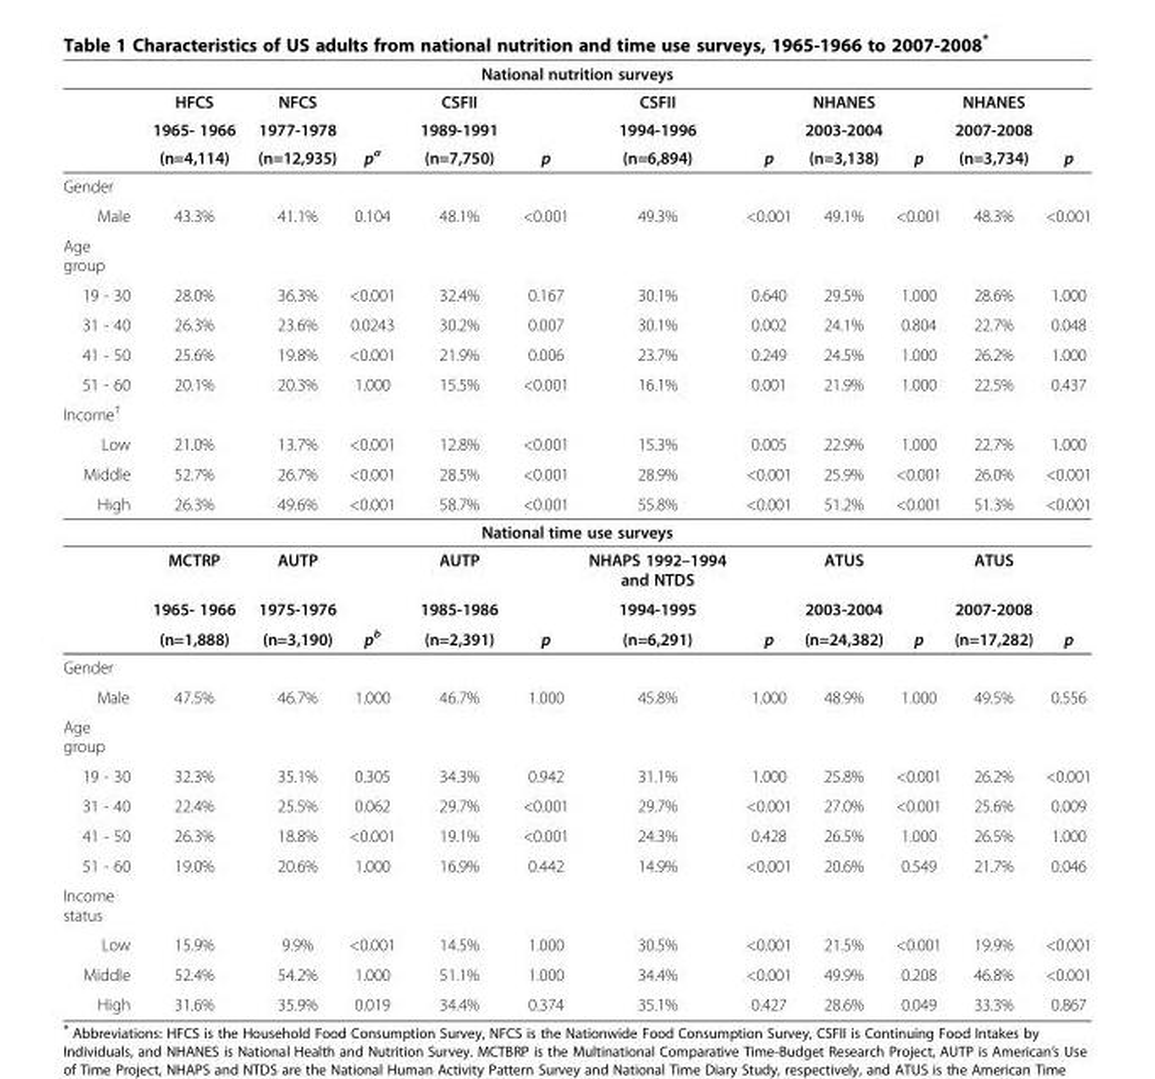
<table><thead><tr><td colspan="12">National nutrition surveys</td></tr><tr><td rowspan="3"></td><td rowspan="3">HFCS 1965- 1966 (n=4,114)</td><td rowspan="3">NFCS 1977-1978 (n=12,935)</td><td rowspan="3">p<sup>a</sup></td><td rowspan="3">CSFII 1989-1991 (n=7,750)</td><td rowspan="3">p</td><td rowspan="3">CSFII 1994-1996 (n=6,894)</td><td rowspan="3">p</td><td rowspan="3">NHANES 2003-2004 (n=3,138)</td><td rowspan="3">p</td><td rowspan="3">NHANES 2007-2008 (n=3,734)</td><td rowspan="3">p</td></tr><tr></tr><tr></tr></thead><tbody><tr><td colspan="12">Gender</td></tr><tr><td>Male</td><td>43.3%</td><td>41.1%</td><td>0.104</td><td>48.1%</td><td>&lt;0.001</td><td>49.3%</td><td>&lt;0.001</td><td>49.1%</td><td>&lt;0.001</td><td>48.3%</td><td>&lt;0.001</td></tr><tr><td colspan="12">Age group</td></tr><tr><td>19 - 30</td><td>28.0%</td><td>36.3%</td><td>&lt;0.001</td><td>32.4%</td><td>0.167</td><td>30.1%</td><td>0.640</td><td>29.5%</td><td>1.000</td><td>28.6%</td><td>1.000</td></tr><tr><td>31 - 40</td><td>26.3%</td><td>23.6%</td><td>0.0243</td><td>30.2%</td><td>0.007</td><td>30.1%</td><td>0.002</td><td>24.1%</td><td>0.804</td><td>22.7%</td><td>0.048</td></tr><tr><td>41 - 50</td><td>25.6%</td><td>19.8%</td><td>&lt;0.001</td><td>21.9%</td><td>0.006</td><td>23.7%</td><td>0.249</td><td>24.5%</td><td>1.000</td><td>26.2%</td><td>1.000</td></tr><tr><td>51 - 60</td><td>20.1%</td><td>20.3%</td><td>1.000</td><td>15.5%</td><td>&lt;0.001</td><td>16.1%</td><td>0.001</td><td>21.9%</td><td>1.000</td><td>22.5%</td><td>0.437</td></tr><tr><td colspan="12">Income<sup>†</sup></td></tr><tr><td>Low</td><td>21.0%</td><td>13.7%</td><td>&lt;0.001</td><td>12.8%</td><td>&lt;0.001</td><td>15.3%</td><td>0.005</td><td>22.9%</td><td>1.000</td><td>22.7%</td><td>1.000</td></tr><tr><td>Middle</td><td>52.7%</td><td>26.7%</td><td>&lt;0.001</td><td>28.5%</td><td>&lt;0.001</td><td>28.9%</td><td>&lt;0.001</td><td>25.9%</td><td>&lt;0.001</td><td>26.0%</td><td>&lt;0.001</td></tr><tr><td>High</td><td>26.3%</td><td>49.6%</td><td>&lt;0.001</td><td>58.7%</td><td>&lt;0.001</td><td>55.8%</td><td>&lt;0.001</td><td>51.2%</td><td>&lt;0.001</td><td>51.3%</td><td>&lt;0.001</td></tr><tr><td colspan="12">National time use surveys</td></tr><tr><td></td><td>MCTRP</td><td>AUTP</td><td></td><td>AUTP</td><td></td><td>NHAPS 1992–1994 and NTDS</td><td></td><td>ATUS</td><td></td><td>ATUS</td><td></td></tr><tr><td></td><td>1965- 1966</td><td>1975-1976</td><td></td><td>1985-1986</td><td></td><td>1994-1995</td><td></td><td>2003-2004</td><td></td><td>2007-2008</td><td></td></tr><tr><td></td><td>(n=1,888)</td><td>(n=3,190)</td><td>p<sup>b</sup></td><td>(n=2,391)</td><td>p</td><td>(n=6,291)</td><td>p</td><td>(n=24,382)</td><td>p</td><td>(n=17,282)</td><td>p</td></tr><tr><td colspan="12">Gender</td></tr><tr><td>Male</td><td>47.5%</td><td>46.7%</td><td>1.000</td><td>46.7%</td><td>1.000</td><td>45.8%</td><td>1.000</td><td>48.9%</td><td>1.000</td><td>49.5%</td><td>0.556</td></tr><tr><td colspan="12">Age group</td></tr><tr><td>19 - 30</td><td>32.3%</td><td>35.1%</td><td>0.305</td><td>34.3%</td><td>0.942</td><td>31.1%</td><td>1.000</td><td>25.8%</td><td>&lt;0.001</td><td>26.2%</td><td>&lt;0.001</td></tr><tr><td>31 - 40</td><td>22.4%</td><td>25.5%</td><td>0.062</td><td>29.7%</td><td>&lt;0.001</td><td>29.7%</td><td>&lt;0.001</td><td>27.0%</td><td>&lt;0.001</td><td>25.6%</td><td>0.009</td></tr><tr><td>41 - 50</td><td>26.3%</td><td>18.8%</td><td>&lt;0.001</td><td>19.1%</td><td>&lt;0.001</td><td>24.3%</td><td>0.428</td><td>26.5%</td><td>1.000</td><td>26.5%</td><td>1.000</td></tr><tr><td>51 - 60</td><td>19.0%</td><td>20.6%</td><td>1.000</td><td>16.9%</td><td>0.442</td><td>14.9%</td><td>&lt;0.001</td><td>20.6%</td><td>0.549</td><td>21.7%</td><td>0.046</td></tr><tr><td colspan="12">Income status</td></tr><tr><td>Low</td><td>15.9%</td><td>9.9%</td><td>&lt;0.001</td><td>14.5%</td><td>1.000</td><td>30.5%</td><td>&lt;0.001</td><td>21.5%</td><td>&lt;0.001</td><td>19.9%</td><td>&lt;0.001</td></tr><tr><td>Middle</td><td>52.4%</td><td>54.2%</td><td>1.000</td><td>51.1%</td><td>1.000</td><td>34.4%</td><td>&lt;0.001</td><td>49.9%</td><td>0.208</td><td>46.8%</td><td>&lt;0.001</td></tr><tr><td>High</td><td>31.6%</td><td>35.9%</td><td>0.019</td><td>34.4%</td><td>0.374</td><td>35.1%</td><td>0.427</td><td>28.6%</td><td>0.049</td><td>33.3%</td><td>0.867</td></tr></tbody></table>